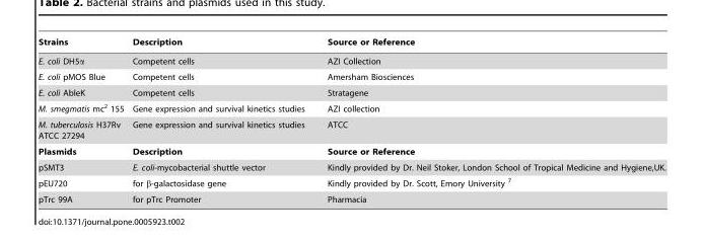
<table><thead><tr><td>Strains</td><td>Description</td><td>Source or Reference</td></tr></thead><tbody><tr><td>E. coli DH5α</td><td>Competent cells</td><td>AZI Collection</td></tr><tr><td>E. coli pMOS Blue</td><td>Competent cells</td><td>Amersham Biosciences</td></tr><tr><td>E. coli AbleK</td><td>Competent cells</td><td>Stratagene</td></tr><tr><td>M. smegmatis mc<sup>2</sup> 155</td><td>Gene expression and survival kinetics studies</td><td>AZI collection</td></tr><tr><td>M. tuberculosis H37Rv ATCC 27294</td><td>Gene expression and survival kinetics studies</td><td>ATCC</td></tr><tr><td>Plasmids</td><td>Description</td><td>Source or Reference</td></tr><tr><td>pSMT3</td><td>E. coli-mycobacterial shuttle vector</td><td>Kindly provided by Dr. Neil Stoker, London School of Tropical Medicine and Hygiene,UK.</td></tr><tr><td>pEU720</td><td>for β-galactosidase gene</td><td>Kindly provided by Dr. Scott, Emory University <sup>7</sup></td></tr><tr><td>pTrc 99A</td><td>for pTrc Promoter</td><td>Pharmacia</td></tr></tbody></table>